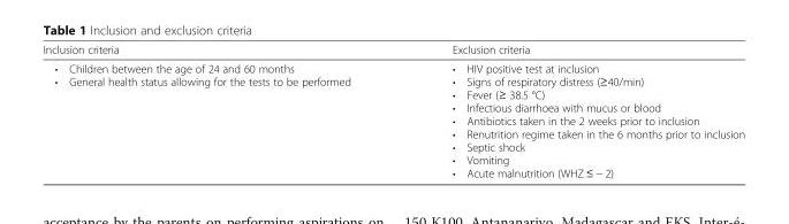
<table><thead><tr><td>Inclusion criteria</td><td>Exclusion criteria</td></tr></thead><tbody><tr><td>• Children between the age of 24 and 60 months • General health status allowing for the tests to be performed</td><td>• HIV positive test at inclusion • Signs of respiratory distress (≥40/min) • Fever (≥ 38.5 °C) • Infectious diarrhoea with mucus or blood • Antibiotics taken in the 2 weeks prior to inclusion • Renutrition regime taken in the 6 months prior to inclusion • Septic shock • Vomiting • Acute malnutrition (WHZ ≤ − 2)</td></tr></tbody></table>